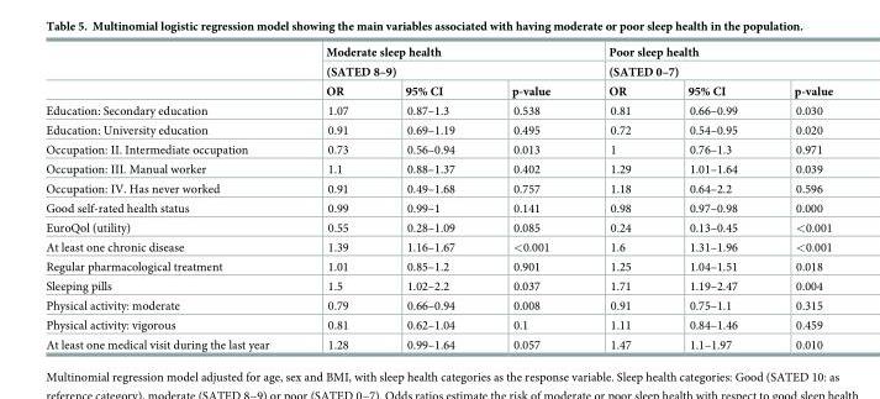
<table><thead><tr><td rowspan="3"></td><td rowspan="2" colspan="3">Moderate sleep health (SATED 8–9)</td><td rowspan="2" colspan="3">Poor sleep health (SATED 0–7)</td></tr><tr></tr><tr><td>OR</td><td>95% CI</td><td>p-value</td><td>OR</td><td>95% CI</td><td>p-value</td></tr></thead><tbody><tr><td>Education: Secondary education</td><td>1.07</td><td>0.87–1.3</td><td>0.538</td><td>0.81</td><td>0.66–0.99</td><td>0.030</td></tr><tr><td>Education: University education</td><td>0.91</td><td>0.69–1.19</td><td>0.495</td><td>0.72</td><td>0.54–0.95</td><td>0.020</td></tr><tr><td>Occupation: II. Intermediate occupation</td><td>0.73</td><td>0.56–0.94</td><td>0.013</td><td>1</td><td>0.76–1.3</td><td>0.971</td></tr><tr><td>Occupation: III. Manual worker</td><td>1.1</td><td>0.88–1.37</td><td>0.402</td><td>1.29</td><td>1.01–1.64</td><td>0.039</td></tr><tr><td>Occupation: IV. Has never worked</td><td>0.91</td><td>0.49–1.68</td><td>0.757</td><td>1.18</td><td>0.64–2.2</td><td>0.596</td></tr><tr><td>Good self-rated health status</td><td>0.99</td><td>0.99–1</td><td>0.141</td><td>0.98</td><td>0.97–0.98</td><td>0.000</td></tr><tr><td>EuroQol (utility)</td><td>0.55</td><td>0.28–1.09</td><td>0.085</td><td>0.24</td><td>0.13–0.45</td><td>&lt;0.001</td></tr><tr><td>At least one chronic disease</td><td>1.39</td><td>1.16–1.67</td><td>&lt;0.001</td><td>1.6</td><td>1.31–1.96</td><td>&lt;0.001</td></tr><tr><td>Regular pharmacological treatment</td><td>1.01</td><td>0.85–1.2</td><td>0.901</td><td>1.25</td><td>1.04–1.51</td><td>0.018</td></tr><tr><td>Sleeping pills</td><td>1.5</td><td>1.02–2.2</td><td>0.037</td><td>1.71</td><td>1.19–2.47</td><td>0.004</td></tr><tr><td>Physical activity: moderate</td><td>0.79</td><td>0.66–0.94</td><td>0.008</td><td>0.91</td><td>0.75–1.1</td><td>0.315</td></tr><tr><td>Physical activity: vigorous</td><td>0.81</td><td>0.62–1.04</td><td>0.1</td><td>1.11</td><td>0.84–1.46</td><td>0.459</td></tr><tr><td>At least one medical visit during the last year</td><td>1.28</td><td>0.99–1.64</td><td>0.057</td><td>1.47</td><td>1.1–1.97</td><td>0.010</td></tr></tbody></table>